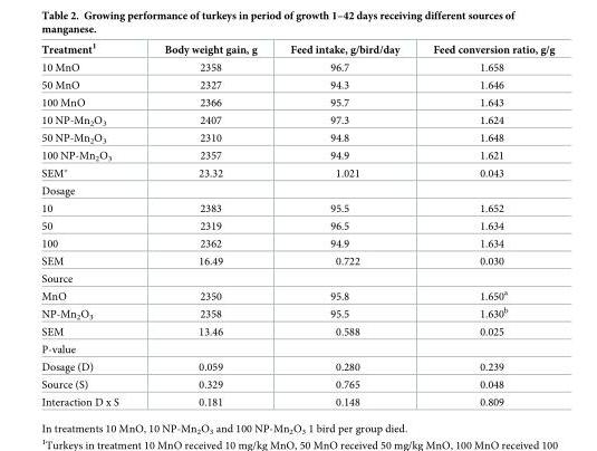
<table><thead><tr><td>Treatment<sup>1</sup></td><td>Body weight gain, g</td><td>Feed intake, g/bird/day</td><td>Feed conversion ratio, g/g</td></tr></thead><tbody><tr><td>10 MnO</td><td>2358</td><td>96.7</td><td>1.658</td></tr><tr><td>50 MnO</td><td>2327</td><td>94.3</td><td>1.646</td></tr><tr><td>100 MnO</td><td>2366</td><td>95.7</td><td>1.643</td></tr><tr><td>10 NP-Mn<sub>2</sub>O<sub>3</sub></td><td>2407</td><td>97.3</td><td>1.624</td></tr><tr><td>50 NP-Mn<sub>2</sub>O<sub>3</sub></td><td>2310</td><td>94.8</td><td>1.648</td></tr><tr><td>100 NP-Mn<sub>2</sub>O<sub>3</sub></td><td>2357</td><td>94.9</td><td>1.621</td></tr><tr><td>SEM*</td><td>23.32</td><td>1.021</td><td>0.043</td></tr><tr><td colspan="4">Dosage</td></tr><tr><td>10</td><td>2383</td><td>95.5</td><td>1.652</td></tr><tr><td>50</td><td>2319</td><td>96.5</td><td>1.634</td></tr><tr><td>100</td><td>2362</td><td>94.9</td><td>1.634</td></tr><tr><td>SEM</td><td>16.49</td><td>0.722</td><td>0.030</td></tr><tr><td colspan="4">Source</td></tr><tr><td>MnO</td><td>2350</td><td>95.8</td><td>1.650<sup>a</sup></td></tr><tr><td>NP-Mn<sub>2</sub>O<sub>3</sub></td><td>2358</td><td>95.5</td><td>1.630<sup>b</sup></td></tr><tr><td>SEM</td><td>13.46</td><td>0.588</td><td>0.025</td></tr><tr><td colspan="4">P-value</td></tr><tr><td>Dosage (D)</td><td>0.059</td><td>0.280</td><td>0.239</td></tr><tr><td>Source (S)</td><td>0.329</td><td>0.765</td><td>0.048</td></tr><tr><td>Interaction D x S</td><td>0.181</td><td>0.148</td><td>0.809</td></tr></tbody></table>